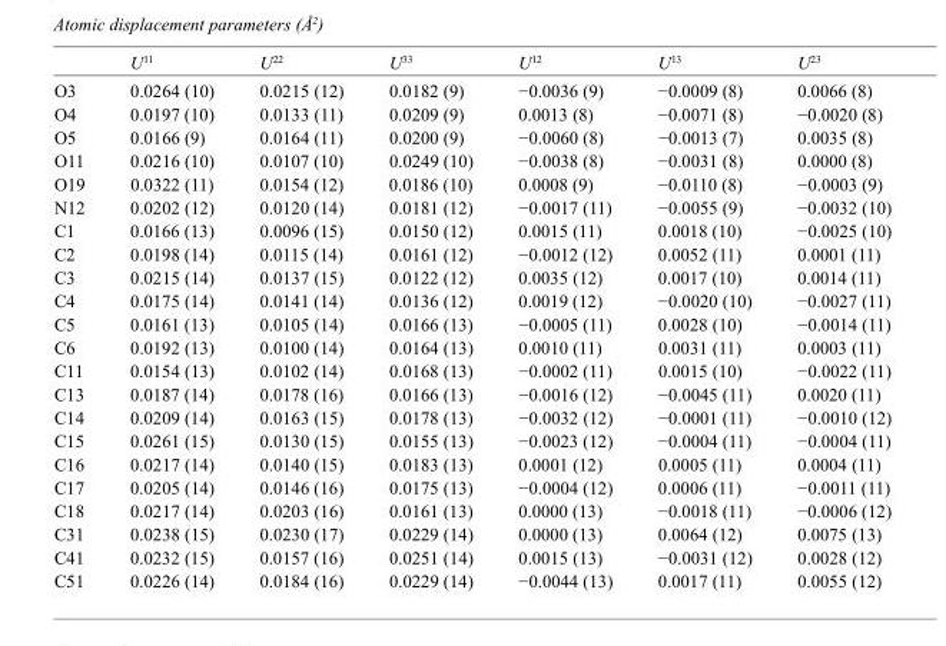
<table><thead><tr><td></td><td>U<sup>11</sup></td><td>U<sup>22</sup></td><td>U<sup>33</sup></td><td>U<sup>12</sup></td><td>U<sup>13</sup></td><td>U<sup>23</sup></td></tr></thead><tbody><tr><td>O3</td><td>0.0264 (10)</td><td>0.0215 (12)</td><td>0.0182 (9)</td><td>−0.0036 (9)</td><td>−0.0009 (8)</td><td>0.0066 (8)</td></tr><tr><td>O4</td><td>0.0197 (10)</td><td>0.0133 (11)</td><td>0.0209 (9)</td><td>0.0013 (8)</td><td>−0.0071 (8)</td><td>−0.0020 (8)</td></tr><tr><td>O5</td><td>0.0166 (9)</td><td>0.0164 (11)</td><td>0.0200 (9)</td><td>−0.0060 (8)</td><td>−0.0013 (7)</td><td>0.0035 (8)</td></tr><tr><td>O11</td><td>0.0216 (10)</td><td>0.0107 (10)</td><td>0.0249 (10)</td><td>−0.0038 (8)</td><td>−0.0031 (8)</td><td>0.0000 (8)</td></tr><tr><td>O19</td><td>0.0322 (11)</td><td>0.0154 (12)</td><td>0.0186 (10)</td><td>0.0008 (9)</td><td>−0.0110 (8)</td><td>−0.0003 (9)</td></tr><tr><td>N12</td><td>0.0202 (12)</td><td>0.0120 (14)</td><td>0.0181 (12)</td><td>−0.0017 (11)</td><td>−0.0055 (9)</td><td>−0.0032 (10)</td></tr><tr><td>C1</td><td>0.0166 (13)</td><td>0.0096 (15)</td><td>0.0150 (12)</td><td>0.0015 (11)</td><td>0.0018 (10)</td><td>−0.0025 (10)</td></tr><tr><td>C2</td><td>0.0198 (14)</td><td>0.0115 (14)</td><td>0.0161 (12)</td><td>−0.0012 (12)</td><td>0.0052 (11)</td><td>0.0001 (11)</td></tr><tr><td>C3</td><td>0.0215 (14)</td><td>0.0137 (15)</td><td>0.0122 (12)</td><td>0.0035 (12)</td><td>0.0017 (10)</td><td>0.0014 (11)</td></tr><tr><td>C4</td><td>0.0175 (14)</td><td>0.0141 (14)</td><td>0.0136 (12)</td><td>0.0019 (12)</td><td>−0.0020 (10)</td><td>−0.0027 (11)</td></tr><tr><td>C5</td><td>0.0161 (13)</td><td>0.0105 (14)</td><td>0.0166 (13)</td><td>−0.0005 (11)</td><td>0.0028 (10)</td><td>−0.0014 (11)</td></tr><tr><td>C6</td><td>0.0192 (13)</td><td>0.0100 (14)</td><td>0.0164 (13)</td><td>0.0010 (11)</td><td>0.0031 (11)</td><td>0.0003 (11)</td></tr><tr><td>C11</td><td>0.0154 (13)</td><td>0.0102 (14)</td><td>0.0168 (13)</td><td>−0.0002 (11)</td><td>0.0015 (10)</td><td>−0.0022 (11)</td></tr><tr><td>C13</td><td>0.0187 (14)</td><td>0.0178 (16)</td><td>0.0166 (13)</td><td>−0.0016 (12)</td><td>−0.0045 (11)</td><td>0.0020 (11)</td></tr><tr><td>C14</td><td>0.0209 (14)</td><td>0.0163 (15)</td><td>0.0178 (13)</td><td>−0.0032 (12)</td><td>−0.0001 (11)</td><td>−0.0010 (12)</td></tr><tr><td>C15</td><td>0.0261 (15)</td><td>0.0130 (15)</td><td>0.0155 (13)</td><td>−0.0023 (12)</td><td>−0.0004 (11)</td><td>−0.0004 (11)</td></tr><tr><td>C16</td><td>0.0217 (14)</td><td>0.0140 (15)</td><td>0.0183 (13)</td><td>0.0001 (12)</td><td>0.0005 (11)</td><td>0.0004 (11)</td></tr><tr><td>C17</td><td>0.0205 (14)</td><td>0.0146 (16)</td><td>0.0175 (13)</td><td>−0.0004 (12)</td><td>0.0006 (11)</td><td>−0.0011 (11)</td></tr><tr><td>C18</td><td>0.0217 (14)</td><td>0.0203 (16)</td><td>0.0161 (13)</td><td>0.0000 (13)</td><td>−0.0018 (11)</td><td>−0.0006 (12)</td></tr><tr><td>C31</td><td>0.0238 (15)</td><td>0.0230 (17)</td><td>0.0229 (14)</td><td>0.0000 (13)</td><td>0.0064 (12)</td><td>0.0075 (13)</td></tr><tr><td>C41</td><td>0.0232 (15)</td><td>0.0157 (16)</td><td>0.0251 (14)</td><td>0.0015 (13)</td><td>−0.0031 (12)</td><td>0.0028 (12)</td></tr><tr><td>C51</td><td>0.0226 (14)</td><td>0.0184 (16)</td><td>0.0229 (14)</td><td>−0.0044 (13)</td><td>0.0017 (11)</td><td>0.0055 (12)</td></tr></tbody></table>